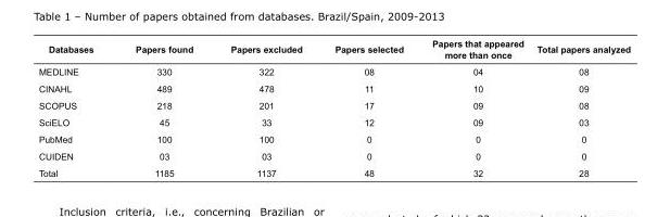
<table><tbody><tr><td>Databases</td><td>Papers found</td><td>Papers excluded</td><td>Papers selected</td><td>Papers that appeared more than once</td><td>Total papers analyzed</td></tr><tr><td>MEDLINE</td><td>330</td><td>322</td><td>08</td><td>04</td><td>08</td></tr><tr><td>CINAHL</td><td>489</td><td>478</td><td>11</td><td>10</td><td>09</td></tr><tr><td>SCOPUS</td><td>218</td><td>201</td><td>17</td><td>09</td><td>08</td></tr><tr><td>SciELO</td><td>45</td><td>33</td><td>12</td><td>09</td><td>03</td></tr><tr><td>PubMed</td><td>100</td><td>100</td><td>0</td><td>0</td><td>0</td></tr><tr><td>CUIDEN</td><td>03</td><td>03</td><td>0</td><td>0</td><td>0</td></tr><tr><td>Total</td><td>1185</td><td>1137</td><td>48</td><td>32</td><td>28</td></tr></tbody></table>